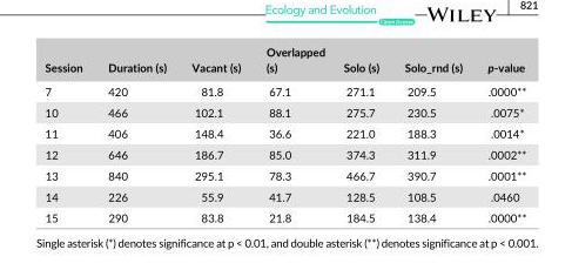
<table><thead><tr><td>Session</td><td>Duration (s)</td><td>Vacant (s)</td><td>Overlapped (s)</td><td>Solo (s)</td><td>Solo_rnd (s)</td><td>p- value</td></tr></thead><tbody><tr><td>7</td><td>420</td><td>81.8</td><td>67.1</td><td>271.1</td><td>209.5</td><td>.0000**</td></tr><tr><td>10</td><td>466</td><td>102.1</td><td>88.1</td><td>275.7</td><td>230.5</td><td>.0075*</td></tr><tr><td>11</td><td>406</td><td>148.4</td><td>36.6</td><td>221.0</td><td>188.3</td><td>.0014*</td></tr><tr><td>12</td><td>646</td><td>186.7</td><td>85.0</td><td>374.3</td><td>311.9</td><td>.0002**</td></tr><tr><td>13</td><td>840</td><td>295.1</td><td>78.3</td><td>466.7</td><td>390.7</td><td>.0001**</td></tr><tr><td>14</td><td>226</td><td>55.9</td><td>41.7</td><td>128.5</td><td>108.5</td><td>.0460</td></tr><tr><td>15</td><td>290</td><td>83.8</td><td>21.8</td><td>184.5</td><td>138.4</td><td>.0000**</td></tr></tbody></table>